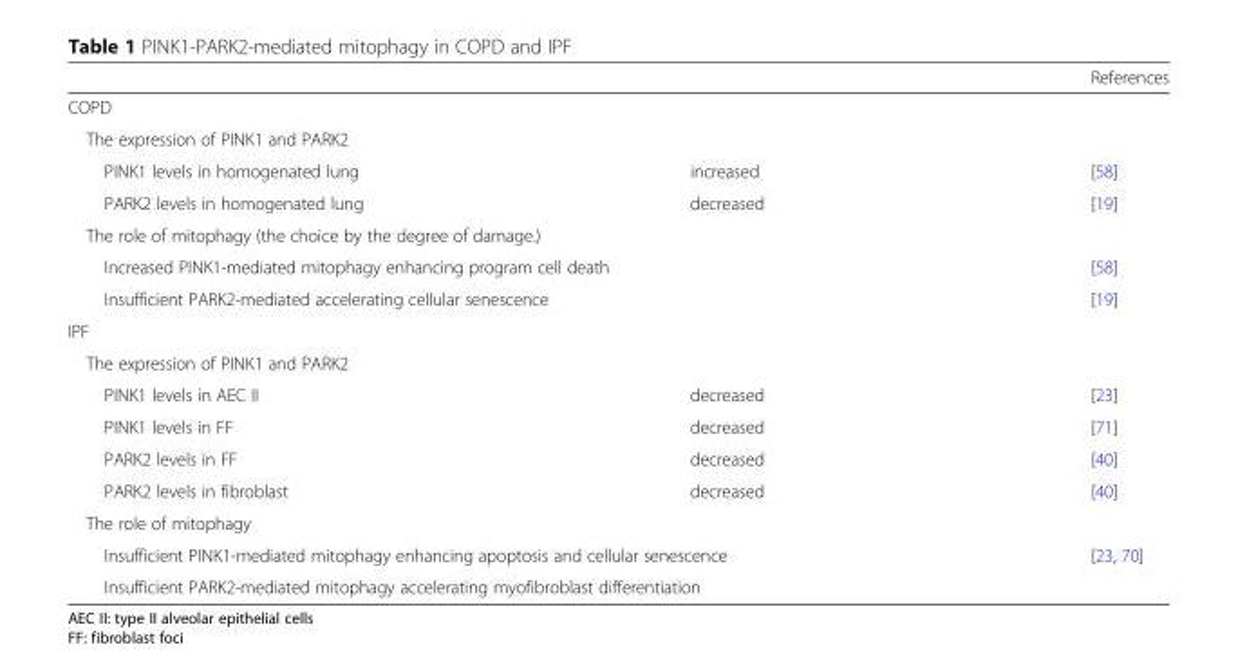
<table><thead><tr><td></td><td></td><td>References</td></tr></thead><tbody><tr><td colspan="3">COPD</td></tr><tr><td colspan="3">The expression of PINK1 and PARK2</td></tr><tr><td>PINK1 levels in homogenated lung</td><td>increased</td><td>[58]</td></tr><tr><td>PARK2 levels in homogenated lung</td><td>decreased</td><td>[19]</td></tr><tr><td colspan="3">The role of mitophagy (the choice by the degree of damage.)</td></tr><tr><td colspan="2">Increased PINK1-mediated mitophagy enhancing program cell death</td><td>[58]</td></tr><tr><td colspan="2">Insufficient PARK2-mediated accelerating cellular senescence</td><td>[19]</td></tr><tr><td colspan="3">IPF</td></tr><tr><td colspan="3">The expression of PINK1 and PARK2</td></tr><tr><td>PINK1 levels in AEC II</td><td>decreased</td><td>[23]</td></tr><tr><td>PINK1 levels in FF</td><td>decreased</td><td>[71]</td></tr><tr><td>PARK2 levels in FF</td><td>decreased</td><td>[40]</td></tr><tr><td>PARK2 levels in fibroblast</td><td>decreased</td><td>[40]</td></tr><tr><td colspan="3">The role of mitophagy</td></tr><tr><td colspan="2">Insufficient PINK1-mediated mitophagy enhancing apoptosis and cellular senescence</td><td>[23, 70]</td></tr><tr><td colspan="2">Insufficient PARK2-mediated mitophagy accelerating myofibroblast differentiation</td><td></td></tr></tbody></table>